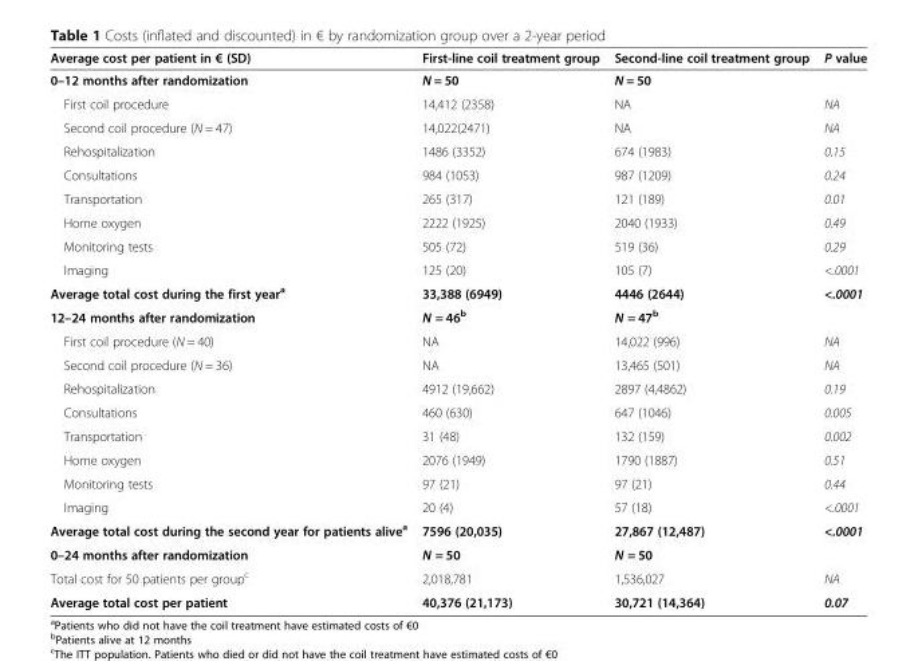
<table><thead><tr><td>Average cost per patient in € (SD)</td><td>First-line coil treatment group</td><td>Second-line coil treatment group</td><td>P value</td></tr></thead><tbody><tr><td>0–12 months after randomization</td><td>N = 50</td><td>N = 50</td><td></td></tr><tr><td>First coil procedure</td><td>14,412 (2358)</td><td>NA</td><td>NA</td></tr><tr><td>Second coil procedure (N = 47)</td><td>14,022(2471)</td><td>NA</td><td>NA</td></tr><tr><td>Rehospitalization</td><td>1486 (3352)</td><td>674 (1983)</td><td>0.15</td></tr><tr><td>Consultations</td><td>984 (1053)</td><td>987 (1209)</td><td>0.24</td></tr><tr><td>Transportation</td><td>265 (317)</td><td>121 (189)</td><td>0.01</td></tr><tr><td>Home oxygen</td><td>2222 (1925)</td><td>2040 (1933)</td><td>0.49</td></tr><tr><td>Monitoring tests</td><td>505 (72)</td><td>519 (36)</td><td>0.29</td></tr><tr><td>Imaging</td><td>125 (20)</td><td>105 (7)</td><td>&lt;.0001</td></tr><tr><td>Average total cost during the first year<sup>a</sup></td><td>33,388 (6949)</td><td>4446 (2644)</td><td>&lt;.0001</td></tr><tr><td>12–24 months after randomization</td><td>N = 46<sup>b</sup></td><td>N = 47<sup>b</sup></td><td></td></tr><tr><td>First coil procedure (N = 40)</td><td>NA</td><td>14,022 (996)</td><td>NA</td></tr><tr><td>Second coil procedure (N = 36)</td><td>NA</td><td>13,465 (501)</td><td>NA</td></tr><tr><td>Rehospitalization</td><td>4912 (19,662)</td><td>2897 (4,4862)</td><td>0.19</td></tr><tr><td>Consultations</td><td>460 (630)</td><td>647 (1046)</td><td>0.005</td></tr><tr><td>Transportation</td><td>31 (48)</td><td>132 (159)</td><td>0.002</td></tr><tr><td>Home oxygen</td><td>2076 (1949)</td><td>1790 (1887)</td><td>0.51</td></tr><tr><td>Monitoring tests</td><td>97 (21)</td><td>97 (21)</td><td>0.44</td></tr><tr><td>Imaging</td><td>20 (4)</td><td>57 (18)</td><td>&lt;.0001</td></tr><tr><td>Average total cost during the second year for patients alive<sup>a</sup></td><td>7596 (20,035)</td><td>27,867 (12,487)</td><td>&lt;.0001</td></tr><tr><td>0–24 months after randomization</td><td>N = 50</td><td>N = 50</td><td></td></tr><tr><td>Total cost for 50 patients per group<sup>c</sup></td><td>2,018,781</td><td>1,536,027</td><td>NA</td></tr><tr><td>Average total cost per patient</td><td>40,376 (21,173)</td><td>30,721 (14,364)</td><td>0.07</td></tr></tbody></table>